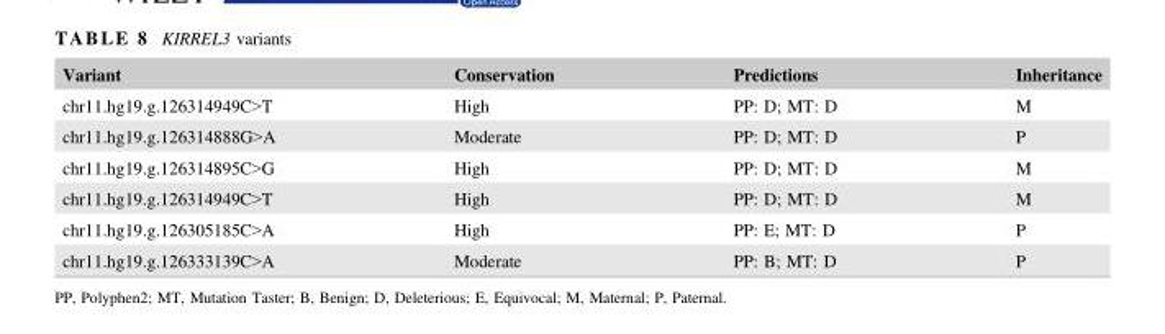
<table><thead><tr><td>Variant</td><td>Conservation</td><td>Predictions</td><td>Inheritance</td></tr></thead><tbody><tr><td>chr11.hg19.g.126314949C&gt;T</td><td>High</td><td>PP: D; MT: D</td><td>M</td></tr><tr><td>chr11.hg19.g.126314888G&gt;A</td><td>Moderate</td><td>PP: D; MT: D</td><td>P</td></tr><tr><td>chr11.hg19.g.126314895C&gt;G</td><td>High</td><td>PP: D; MT: D</td><td>M</td></tr><tr><td>chr11.hg19.g.126314949C&gt;T</td><td>High</td><td>PP: D; MT: D</td><td>M</td></tr><tr><td>chr11.hg19.g.126305185C&gt;A</td><td>High</td><td>PP: E; MT: D</td><td>P</td></tr><tr><td>chr11.hg19.g.126333139C&gt;A</td><td>Moderate</td><td>PP: B; MT: D</td><td>P</td></tr></tbody></table>